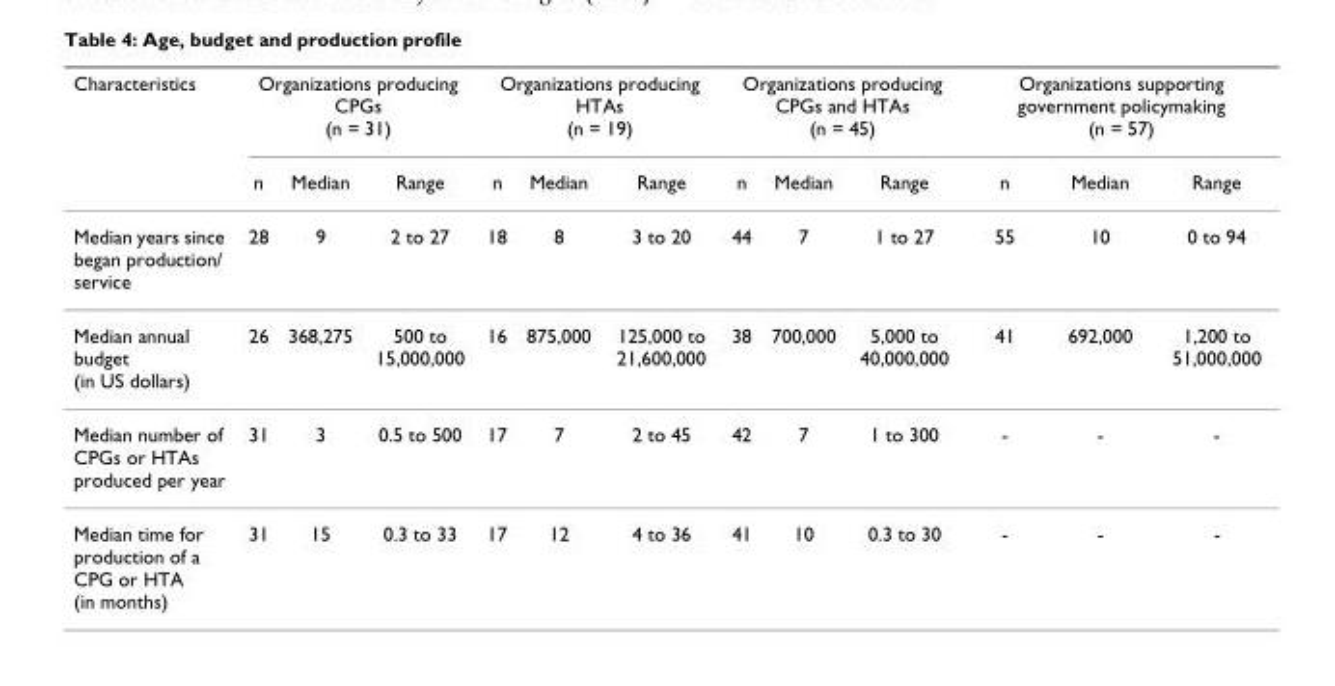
<table><thead><tr><td rowspan="2">Characteristics</td><td colspan="3">Organizations producing CPGs (n = 31)</td><td colspan="3">Organizations producing HTAs (n = 19)</td><td colspan="3">Organizations producing CPGs and HTAs (n = 45)</td><td colspan="3">Organizations supporting government policymaking (n = 57)</td></tr><tr><td>n</td><td>Median</td><td>Range</td><td>n</td><td>Median</td><td>Range</td><td>n</td><td>Median</td><td>Range</td><td>n</td><td>Median</td><td>Range</td></tr></thead><tbody><tr><td>Median years since began production/ service</td><td>28</td><td>9</td><td>2 to 27</td><td>18</td><td>8</td><td>3 to 20</td><td>44</td><td>7</td><td>1 to 27</td><td>55</td><td>10</td><td>0 to 94</td></tr><tr><td>Median annual budget (in US dollars)</td><td>26</td><td>368,275</td><td>500 to 15,000,000</td><td>16</td><td>875,000</td><td>125,000 to 21,600,000</td><td>38</td><td>700,000</td><td>5,000 to 40,000,000</td><td>41</td><td>692,000</td><td>1,200 to 51,000,000</td></tr><tr><td>Median number of CPGs or HTAs produced per year</td><td>31</td><td>3</td><td>0.5 to 500</td><td>17</td><td>7</td><td>2 to 45</td><td>42</td><td>7</td><td>1 to 300</td><td>-</td><td>-</td><td>-</td></tr><tr><td>Median time for production of a CPG or HTA (in months)</td><td>31</td><td>15</td><td>0.3 to 33</td><td>17</td><td>12</td><td>4 to 36</td><td>41</td><td>10</td><td>0.3 to 30</td><td>-</td><td>-</td><td>-</td></tr></tbody></table>